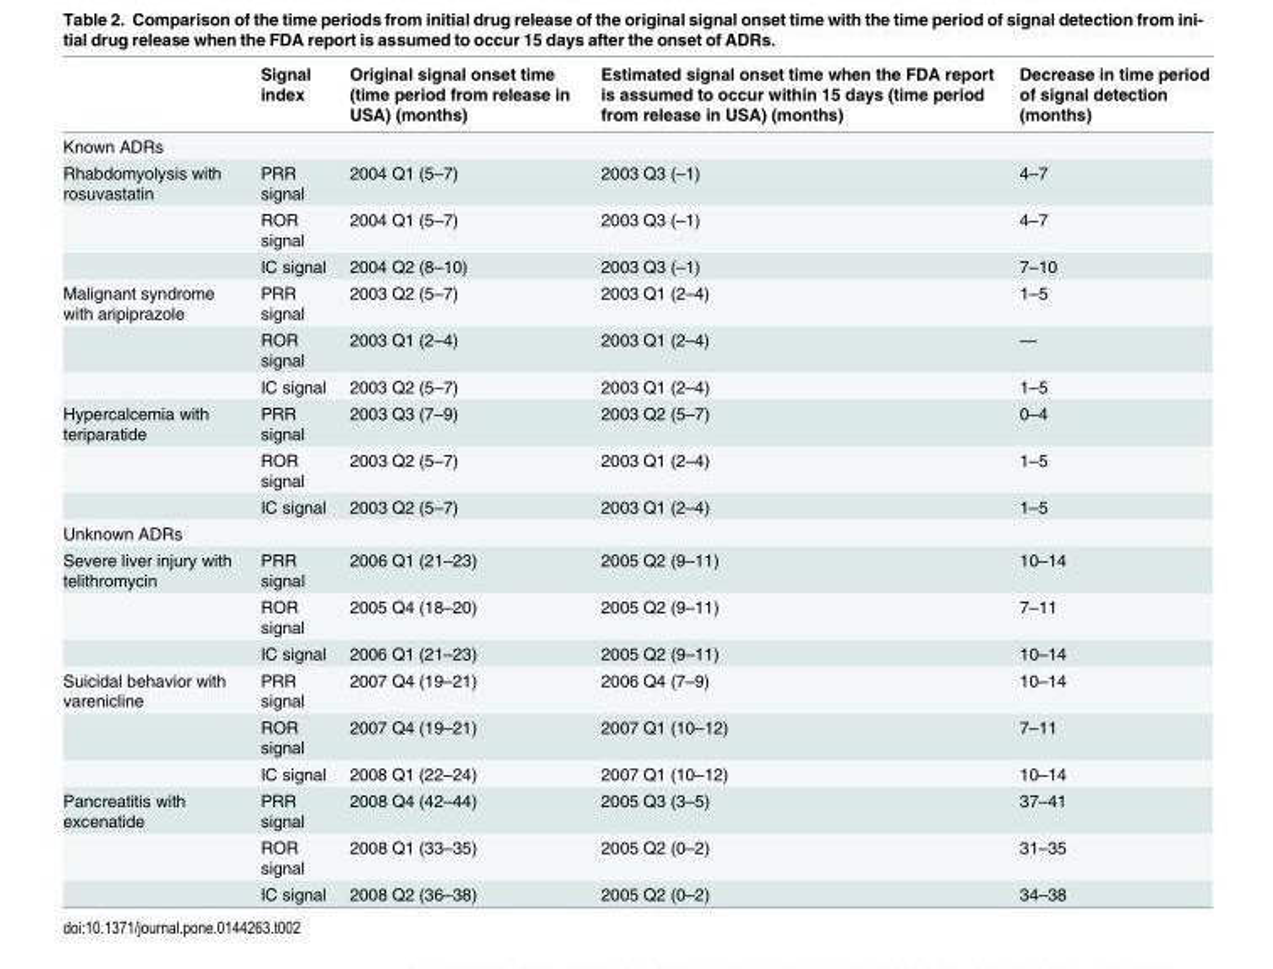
<table><thead><tr><td></td><td>Signal index</td><td>Original signal onset time (time period from release in USA) (months)</td><td>Estimated signal onset time when the FDA report is assumed to occur within 15 days (time period from release in USA) (months)</td><td>Decrease in time period of signal detection (months)</td></tr></thead><tbody><tr><td colspan="5">Known ADRs</td></tr><tr><td rowspan="3">Rhabdomyolysis with rosuvastatin</td><td>PRR signal</td><td>2004 Q1 (5–7)</td><td>2003 Q3 (–1)</td><td>4–7</td></tr><tr><td>ROR signal</td><td>2004 Q1 (5–7)</td><td>2003 Q3 (–1)</td><td>4–7</td></tr><tr><td>IC signal</td><td>2004 Q2 (8–10)</td><td>2003 Q3 (–1)</td><td>7–10</td></tr><tr><td rowspan="3">Malignant syndrome with aripiprazole</td><td>PRR signal</td><td>2003 Q2 (5–7)</td><td>2003 Q1 (2–4)</td><td>1–5</td></tr><tr><td>ROR signal</td><td>2003 Q1 (2–4)</td><td>2003 Q1 (2–4)</td><td>—</td></tr><tr><td>IC signal</td><td>2003 Q2 (5–7)</td><td>2003 Q1 (2–4)</td><td>1–5</td></tr><tr><td rowspan="3">Hypercalcemia with teriparatide</td><td>PRR signal</td><td>2003 Q3 (7–9)</td><td>2003 Q2 (5–7)</td><td>0–4</td></tr><tr><td>ROR signal</td><td>2003 Q2 (5–7)</td><td>2003 Q1 (2–4)</td><td>1–5</td></tr><tr><td>IC signal</td><td>2003 Q2 (5–7)</td><td>2003 Q1 (2–4)</td><td>1–5</td></tr><tr><td colspan="5">Unknown ADRs</td></tr><tr><td rowspan="3">Severe liver injury with telithromycin</td><td>PRR signal</td><td>2006 Q1 (21–23)</td><td>2005 Q2 (9–11)</td><td>10–14</td></tr><tr><td>ROR signal</td><td>2005 Q4 (18–20)</td><td>2005 Q2 (9–11)</td><td>7–11</td></tr><tr><td>IC signal</td><td>2006 Q1 (21–23)</td><td>2005 Q2 (9–11)</td><td>10–14</td></tr><tr><td rowspan="3">Suicidal behavior with varenicline</td><td>PRR signal</td><td>2007 Q4 (19–21)</td><td>2006 Q4 (7–9)</td><td>10–14</td></tr><tr><td>ROR signal</td><td>2007 Q4 (19–21)</td><td>2007 Q1 (10–12)</td><td>7–11</td></tr><tr><td>IC signal</td><td>2008 Q1 (22–24)</td><td>2007 Q1 (10–12)</td><td>10–14</td></tr><tr><td rowspan="3">Pancreatitis with excenatide</td><td>PRR signal</td><td>2008 Q4 (42–44)</td><td>2005 Q3 (3–5)</td><td>37–41</td></tr><tr><td>ROR signal</td><td>2008 Q1 (33–35)</td><td>2005 Q2 (0–2)</td><td>31–35</td></tr><tr><td>IC signal</td><td>2008 Q2 (36–38)</td><td>2005 Q2 (0–2)</td><td>34–38</td></tr></tbody></table>